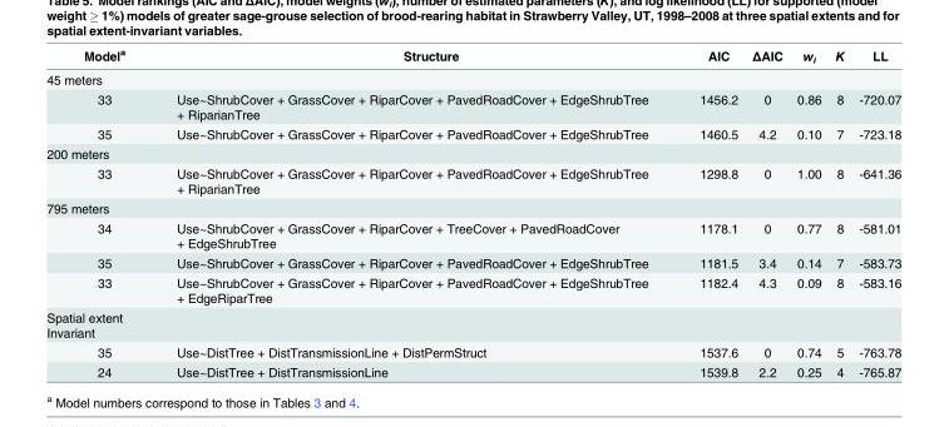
<table><thead><tr><td>Model<sup>a</sup></td><td>Structure</td><td>AIC</td><td>ΔAIC</td><td>w<sub>i</sub></td><td>K</td><td>LL</td></tr></thead><tbody><tr><td colspan="7">45 meters</td></tr><tr><td>33</td><td>Use~ShrubCover + GrassCover + RiparCover + PavedRoadCover + EdgeShrubTree + RiparianTree</td><td>1456.2</td><td>0</td><td>0.86</td><td>8</td><td>-720.07</td></tr><tr><td>35</td><td>Use~ShrubCover + GrassCover + RiparCover + PavedRoadCover + EdgeShrubTree</td><td>1460.5</td><td>4.2</td><td>0.10</td><td>7</td><td>-723.18</td></tr><tr><td colspan="7">200 meters</td></tr><tr><td>33</td><td>Use~ShrubCover + GrassCover + RiparCover + PavedRoadCover + EdgeShrubTree + RiparianTree</td><td>1298.8</td><td>0</td><td>1.00</td><td>8</td><td>-641.36</td></tr><tr><td colspan="7">795 meters</td></tr><tr><td>34</td><td>Use~ShrubCover + GrassCover + RiparCover + TreeCover + PavedRoadCover + EdgeShrubTree</td><td>1178.1</td><td>0</td><td>0.77</td><td>8</td><td>-581.01</td></tr><tr><td>35</td><td>Use~ShrubCover + GrassCover + RiparCover + PavedRoadCover + EdgeShrubTree</td><td>1181.5</td><td>3.4</td><td>0.14</td><td>7</td><td>-583.73</td></tr><tr><td>33</td><td>Use~ShrubCover + GrassCover + RiparCover + PavedRoadCover + EdgeShrubTree + EdgeRiparTree</td><td>1182.4</td><td>4.3</td><td>0.09</td><td>8</td><td>-583.16</td></tr><tr><td colspan="7">Spatial extent Invariant</td></tr><tr><td>35</td><td>Use~DistTree + DistTransmissionLine + DistPermStruct</td><td>1537.6</td><td>0</td><td>0.74</td><td>5</td><td>-763.78</td></tr><tr><td>24</td><td>Use~DistTree + DistTransmissionLine</td><td>1539.8</td><td>2.2</td><td>0.25</td><td>4</td><td>-765.87</td></tr></tbody></table>